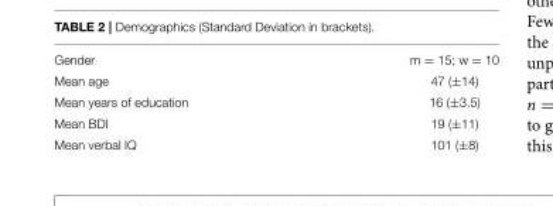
<table><tbody><tr><td>Gender</td><td>m = 15; w = 10</td></tr><tr><td>Mean age</td><td>47 (±14)</td></tr><tr><td>Mean years of education</td><td>16 (±3.5)</td></tr><tr><td>Mean BDI</td><td>19 (±11)</td></tr><tr><td>Mean verbal IQ</td><td>101 (±8)</td></tr></tbody></table>